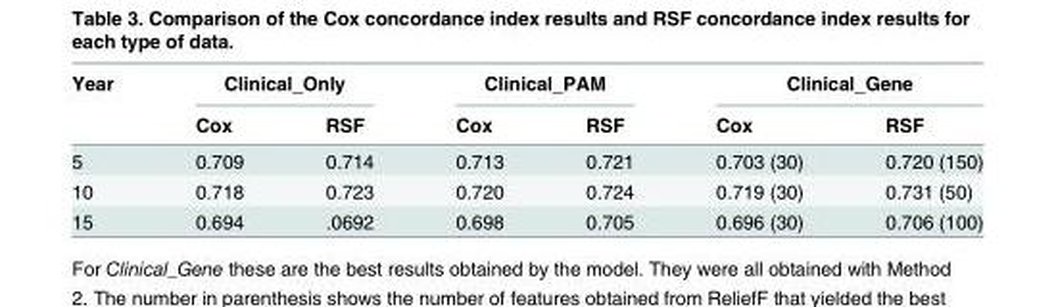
<table><thead><tr><td rowspan="2">Year</td><td colspan="2">Clinical_Only</td><td colspan="2">Clinical_PAM</td><td colspan="2">Clinical_Gene</td></tr><tr><td>Cox</td><td>RSF</td><td>Cox</td><td>RSF</td><td>Cox</td><td>RSF</td></tr></thead><tbody><tr><td>5</td><td>0.709</td><td>0.714</td><td>0.713</td><td>0.721</td><td>0.703 (30)</td><td>0.720 (150)</td></tr><tr><td>10</td><td>0.718</td><td>0.723</td><td>0.720</td><td>0.724</td><td>0.719 (30)</td><td>0.731 (50)</td></tr><tr><td>15</td><td>0.694</td><td>.0692</td><td>0.698</td><td>0.705</td><td>0.696 (30)</td><td>0.706 (100)</td></tr></tbody></table>